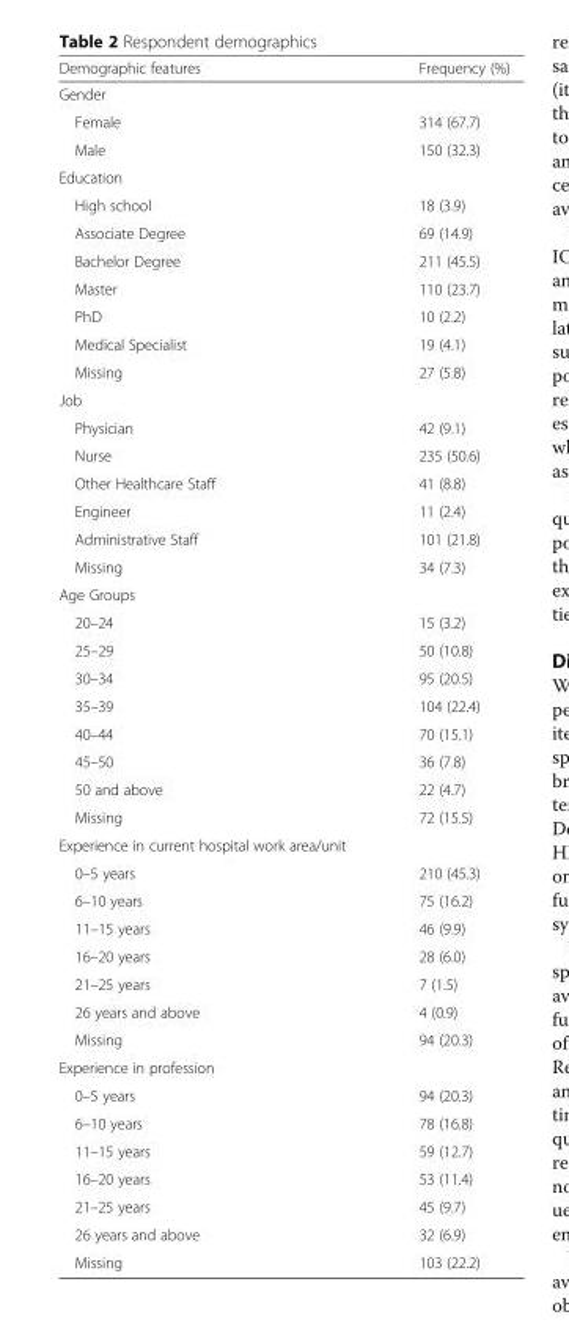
<table><thead><tr><td>Demographic features</td><td>Frequency (%)</td></tr></thead><tbody><tr><td colspan="2">Gender</td></tr><tr><td>Female</td><td>314 (67.7)</td></tr><tr><td>Male</td><td>150 (32.3)</td></tr><tr><td colspan="2">Education</td></tr><tr><td>High school</td><td>18 (3.9)</td></tr><tr><td>Associate Degree</td><td>69 (14.9)</td></tr><tr><td>Bachelor Degree</td><td>211 (45.5)</td></tr><tr><td>Master</td><td>110 (23.7)</td></tr><tr><td>PhD</td><td>10 (2.2)</td></tr><tr><td>Medical Specialist</td><td>19 (4.1)</td></tr><tr><td>Missing</td><td>27 (5.8)</td></tr><tr><td colspan="2">Job</td></tr><tr><td>Physician</td><td>42 (9.1)</td></tr><tr><td>Nurse</td><td>235 (50.6)</td></tr><tr><td>Other Healthcare Staff</td><td>41 (8.8)</td></tr><tr><td>Engineer</td><td>11 (2.4)</td></tr><tr><td>Administrative Staff</td><td>101 (21.8)</td></tr><tr><td>Missing</td><td>34 (7.3)</td></tr><tr><td colspan="2">Age Groups</td></tr><tr><td>20–24</td><td>15 (3.2)</td></tr><tr><td>25–29</td><td>50 (10.8)</td></tr><tr><td>30–34</td><td>95 (20.5)</td></tr><tr><td>35–39</td><td>104 (22.4)</td></tr><tr><td>40–44</td><td>70 (15.1)</td></tr><tr><td>45–50</td><td>36 (7.8)</td></tr><tr><td>50 and above</td><td>22 (4.7)</td></tr><tr><td>Missing</td><td>72 (15.5)</td></tr><tr><td colspan="2">Experience in current hospital work area/unit</td></tr><tr><td>0–5 years</td><td>210 (45.3)</td></tr><tr><td>6–10 years</td><td>75 (16.2)</td></tr><tr><td>11–15 years</td><td>46 (9.9)</td></tr><tr><td>16–20 years</td><td>28 (6.0)</td></tr><tr><td>21–25 years</td><td>7 (1.5)</td></tr><tr><td>26 years and above</td><td>4 (0.9)</td></tr><tr><td>Missing</td><td>94 (20.3)</td></tr><tr><td colspan="2">Experience in profession</td></tr><tr><td>0–5 years</td><td>94 (20.3)</td></tr><tr><td>6–10 years</td><td>78 (16.8)</td></tr><tr><td>11–15 years</td><td>59 (12.7)</td></tr><tr><td>16–20 years</td><td>53 (11.4)</td></tr><tr><td>21–25 years</td><td>45 (9.7)</td></tr><tr><td>26 years and above</td><td>32 (6.9)</td></tr><tr><td>Missing</td><td>103 (22.2)</td></tr></tbody></table>